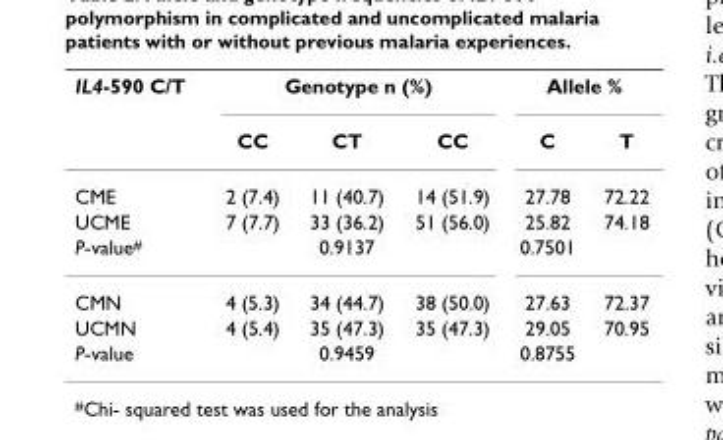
<table><tbody><tr><td rowspan="2">IL4-590 C/T</td><td colspan="3">Genotype n (%)</td><td colspan="2">Allele %</td></tr><tr><td>CC</td><td>CT</td><td>CC</td><td>C</td><td>T</td></tr><tr><td>CME</td><td>2 (7.4)</td><td>11 (40.7)</td><td>14 (51.9)</td><td>27.78</td><td>72.22</td></tr><tr><td>UCME</td><td>7 (7.7)</td><td>33 (36.2)</td><td>51 (56.0)</td><td>25.82</td><td>74.18</td></tr><tr><td>P-value<sup>#</sup></td><td></td><td>0.9137</td><td></td><td>0.7501</td><td></td></tr><tr><td>CMN</td><td>4 (5.3)</td><td>34 (44.7)</td><td>38 (50.0)</td><td>27.63</td><td>72.37</td></tr><tr><td>UCMN</td><td>4 (5.4)</td><td>35 (47.3)</td><td>35 (47.3)</td><td>29.05</td><td>70.95</td></tr><tr><td>P-value</td><td></td><td>0.9459</td><td></td><td>0.8755</td><td></td></tr></tbody></table>